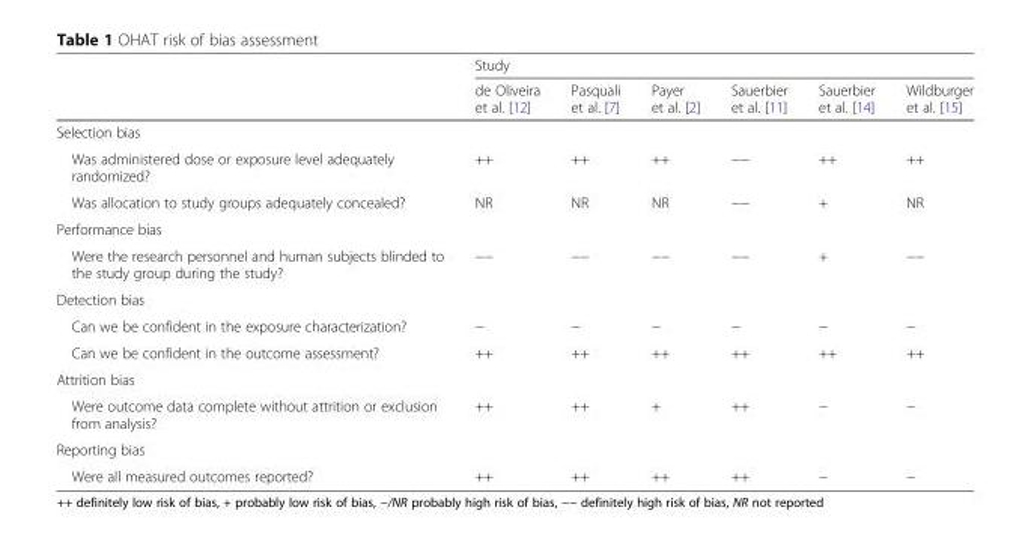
<table><thead><tr><td rowspan="2"></td><td colspan="6">Study</td></tr><tr><td>de Oliveira et al. [12]</td><td>Pasquali et al. [7]</td><td>Payer et al. [2]</td><td>Sauerbier et al. [11]</td><td>Sauerbier et al. [14]</td><td>Wildburger et al. [15]</td></tr></thead><tbody><tr><td colspan="7">Selection bias</td></tr><tr><td>Was administered dose or exposure level adequately randomized?</td><td>++</td><td>++</td><td>++</td><td>−−</td><td>++</td><td>++</td></tr><tr><td>Was allocation to study groups adequately concealed?</td><td>NR</td><td>NR</td><td>NR</td><td>−−</td><td>+</td><td>NR</td></tr><tr><td colspan="7">Performance bias</td></tr><tr><td>Were the research personnel and human subjects blinded to the study group during the study?</td><td>−−</td><td>−−</td><td>−−</td><td>−−</td><td>+</td><td>−−</td></tr><tr><td colspan="7">Detection bias</td></tr><tr><td>Can we be confident in the exposure characterization?</td><td>−</td><td>−</td><td>−</td><td>−</td><td>−</td><td>−</td></tr><tr><td>Can we be confident in the outcome assessment?</td><td>++</td><td>++</td><td>++</td><td>++</td><td>++</td><td>++</td></tr><tr><td colspan="7">Attrition bias</td></tr><tr><td>Were outcome data complete without attrition or exclusion from analysis?</td><td>++</td><td>++</td><td>+</td><td>++</td><td>−</td><td>−</td></tr><tr><td colspan="7">Reporting bias</td></tr><tr><td>Were all measured outcomes reported?</td><td>++</td><td>++</td><td>++</td><td>++</td><td>−</td><td>−</td></tr></tbody></table>